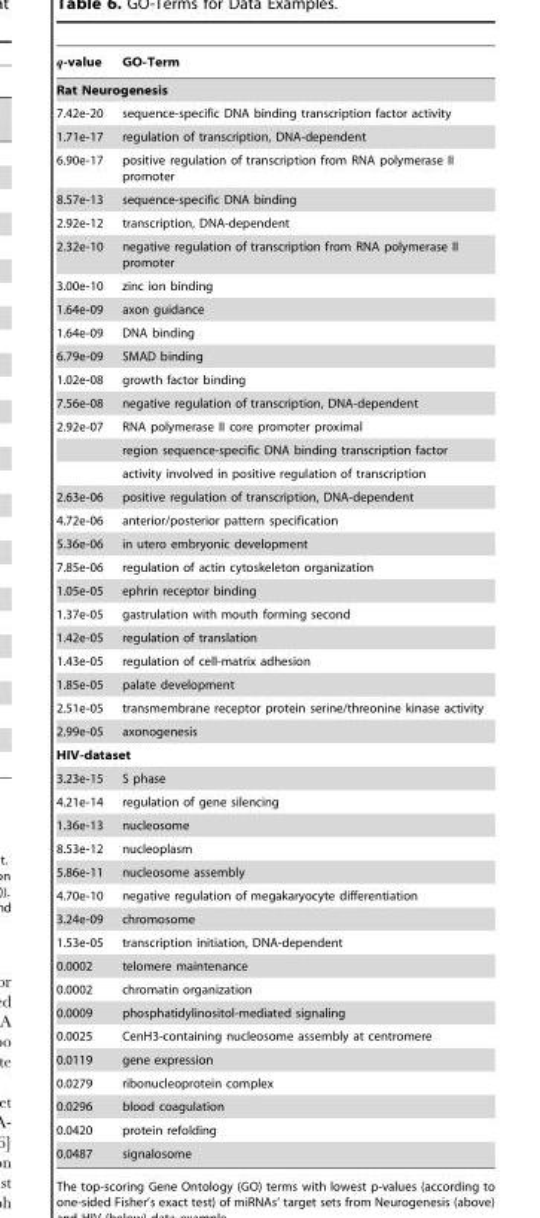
<table><thead><tr><td>q-value</td><td>GO-Term</td></tr></thead><tbody><tr><td colspan="2">Rat Neurogenesis</td></tr><tr><td>7.42e-20</td><td>sequence-specific DNA binding transcription factor activity</td></tr><tr><td>1.71e-17</td><td>regulation of transcription, DNA-dependent</td></tr><tr><td>6.90e-17</td><td>positive regulation of transcription from RNA polymerase II promoter</td></tr><tr><td>8.57e-13</td><td>sequence-specific DNA binding</td></tr><tr><td>2.92e-12</td><td>transcription, DNA-dependent</td></tr><tr><td>2.32e-10</td><td>negative regulation of transcription from RNA polymerase II promoter</td></tr><tr><td>3.00e-10</td><td>zinc ion binding</td></tr><tr><td>1.64e-09</td><td>axon guidance</td></tr><tr><td>1.64e-09</td><td>DNA binding</td></tr><tr><td>6.79e-09</td><td>SMAD binding</td></tr><tr><td>1.02e-08</td><td>growth factor binding</td></tr><tr><td>7.56e-08</td><td>negative regulation of transcription, DNA-dependent</td></tr><tr><td rowspan="3">2.92e-07</td><td>RNA polymerase II core promoter proximal</td></tr><tr><td>region sequence-specific DNA binding transcription factor</td></tr><tr><td>activity involved in positive regulation of transcription</td></tr><tr><td>2.63e-06</td><td>positive regulation of transcription, DNA-dependent</td></tr><tr><td>4.72e-06</td><td>anterior/posterior pattern specification</td></tr><tr><td>5.36e-06</td><td>in utero embryonic development</td></tr><tr><td>7.85e-06</td><td>regulation of actin cytoskeleton organization</td></tr><tr><td>1.05e-05</td><td>ephrin receptor binding</td></tr><tr><td>1.37e-05</td><td>gastrulation with mouth forming second</td></tr><tr><td>1.42e-05</td><td>regulation of translation</td></tr><tr><td>1.43e-05</td><td>regulation of cell-matrix adhesion</td></tr><tr><td>1.85e-05</td><td>palate development</td></tr><tr><td>2.51e-05</td><td>transmembrane receptor protein serine/threonine kinase activity</td></tr><tr><td>2.99e-05</td><td>axonogenesis</td></tr><tr><td colspan="2">HIV-dataset</td></tr><tr><td>3.23e-15</td><td>S phase</td></tr><tr><td>4.21e-14</td><td>regulation of gene silencing</td></tr><tr><td>1.36e-13</td><td>nucleosome</td></tr><tr><td>8.53e-12</td><td>nucleoplasm</td></tr><tr><td>5.86e-11</td><td>nucleosome assembly</td></tr><tr><td>4.70e-10</td><td>negative regulation of megakaryocyte differentiation</td></tr><tr><td>3.24e-09</td><td>chromosome</td></tr><tr><td>1.53e-05</td><td>transcription initiation, DNA-dependent</td></tr><tr><td>0.0002</td><td>telomere maintenance</td></tr><tr><td>0.0002</td><td>chromatin organization</td></tr><tr><td>0.0009</td><td>phosphatidylinositol-mediated signaling</td></tr><tr><td>0.0025</td><td>CenH3-containing nucleosome assembly at centromere</td></tr><tr><td>0.0119</td><td>gene expression</td></tr><tr><td>0.0279</td><td>ribonucleoprotein complex</td></tr><tr><td>0.0296</td><td>blood coagulation</td></tr><tr><td>0.0420</td><td>protein refolding</td></tr><tr><td>0.0487</td><td>signalosome</td></tr></tbody></table>